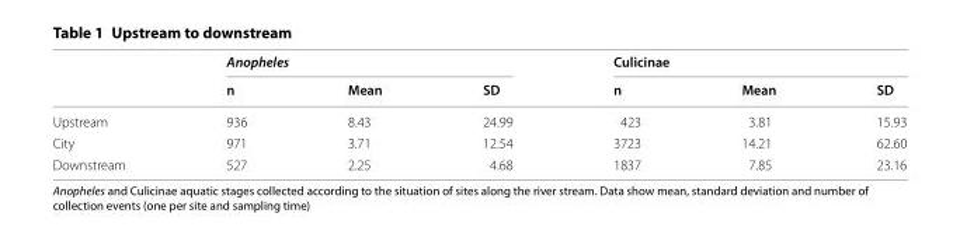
<table><thead><tr><td rowspan="2"></td><td colspan="3">Anopheles</td><td colspan="3">Culicinae</td></tr><tr><td>n</td><td>Mean</td><td>SD</td><td>n</td><td>Mean</td><td>SD</td></tr></thead><tbody><tr><td>Upstream</td><td>936</td><td>8.43</td><td>24.99</td><td>423</td><td>3.81</td><td>15.93</td></tr><tr><td>City</td><td>971</td><td>3.71</td><td>12.54</td><td>3723</td><td>14.21</td><td>62.60</td></tr><tr><td>Downstream</td><td>527</td><td>2.25</td><td>4.68</td><td>1837</td><td>7.85</td><td>23.16</td></tr></tbody></table>